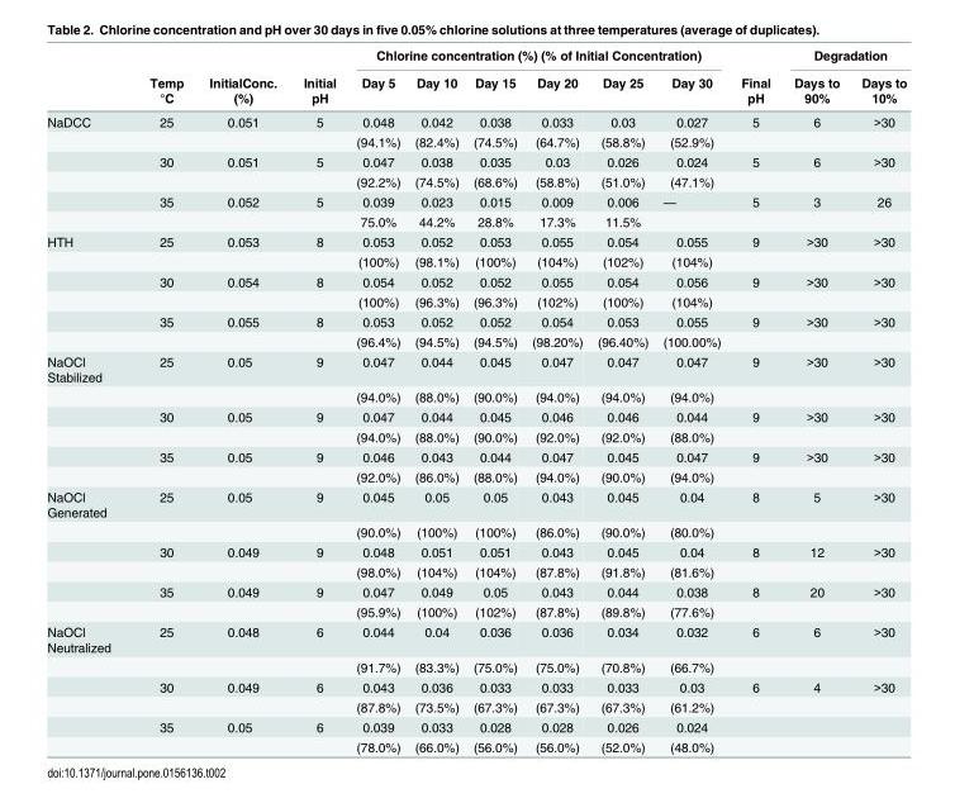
<table><thead><tr><td rowspan="2"></td><td rowspan="2">Temp °C</td><td rowspan="2">InitialConc. (%)</td><td rowspan="2">Initial pH</td><td colspan="6">Chlorine concentration (%) (% of Initial Concentration)</td><td rowspan="2">Final pH</td><td colspan="2">Degradation</td></tr><tr><td>Day 5</td><td>Day 10</td><td>Day 15</td><td>Day 20</td><td>Day 25</td><td>Day 30</td><td>Days to 90%</td><td>Days to 10%</td></tr></thead><tbody><tr><td rowspan="6">NaDCC</td><td>25</td><td>0.051</td><td>5</td><td>0.048</td><td>0.042</td><td>0.038</td><td>0.033</td><td>0.03</td><td>0.027</td><td>5</td><td>6</td><td>&gt;30</td></tr><tr><td></td><td></td><td></td><td>(94.1%)</td><td>(82.4%)</td><td>(74.5%)</td><td>(64.7%)</td><td>(58.8%)</td><td>(52.9%)</td><td></td><td></td><td></td></tr><tr><td>30</td><td>0.051</td><td>5</td><td>0.047</td><td>0.038</td><td>0.035</td><td>0.03</td><td>0.026</td><td>0.024</td><td>5</td><td>6</td><td>&gt;30</td></tr><tr><td></td><td></td><td></td><td>(92.2%)</td><td>(74.5%)</td><td>(68.6%)</td><td>(58.8%)</td><td>(51.0%)</td><td>(47.1%)</td><td></td><td></td><td></td></tr><tr><td>35</td><td>0.052</td><td>5</td><td>0.039</td><td>0.023</td><td>0.015</td><td>0.009</td><td>0.006</td><td>—</td><td>5</td><td>3</td><td>26</td></tr><tr><td></td><td></td><td></td><td>75.0%</td><td>44.2%</td><td>28.8%</td><td>17.3%</td><td>11.5%</td><td></td><td></td><td></td><td></td></tr><tr><td rowspan="6">HTH</td><td>25</td><td>0.053</td><td>8</td><td>0.053</td><td>0.052</td><td>0.053</td><td>0.055</td><td>0.054</td><td>0.055</td><td>9</td><td>&gt;30</td><td>&gt;30</td></tr><tr><td></td><td></td><td></td><td>(100%)</td><td>(98.1%)</td><td>(100%)</td><td>(104%)</td><td>(102%)</td><td>(104%)</td><td></td><td></td><td></td></tr><tr><td>30</td><td>0.054</td><td>8</td><td>0.054</td><td>0.052</td><td>0.052</td><td>0.055</td><td>0.054</td><td>0.056</td><td>9</td><td>&gt;30</td><td>&gt;30</td></tr><tr><td></td><td></td><td></td><td>(100%)</td><td>(96.3%)</td><td>(96.3%)</td><td>(102%)</td><td>(100%)</td><td>(104%)</td><td></td><td></td><td></td></tr><tr><td>35</td><td>0.055</td><td>8</td><td>0.053</td><td>0.052</td><td>0.052</td><td>0.054</td><td>0.053</td><td>0.055</td><td>9</td><td>&gt;30</td><td>&gt;30</td></tr><tr><td></td><td></td><td></td><td>(96.4%)</td><td>(94.5%)</td><td>(94.5%)</td><td>(98.20%)</td><td>(96.40%)</td><td>(100.00%)</td><td></td><td></td><td></td></tr><tr><td rowspan="6">NaOCl Stabilized</td><td>25</td><td>0.05</td><td>9</td><td>0.047</td><td>0.044</td><td>0.045</td><td>0.047</td><td>0.047</td><td>0.047</td><td>9</td><td>&gt;30</td><td>&gt;30</td></tr><tr><td></td><td></td><td></td><td>(94.0%)</td><td>(88.0%)</td><td>(90.0%)</td><td>(94.0%)</td><td>(94.0%)</td><td>(94.0%)</td><td></td><td></td><td></td></tr><tr><td>30</td><td>0.05</td><td>9</td><td>0.047</td><td>0.044</td><td>0.045</td><td>0.046</td><td>0.046</td><td>0.044</td><td>9</td><td>&gt;30</td><td>&gt;30</td></tr><tr><td></td><td></td><td></td><td>(94.0%)</td><td>(88.0%)</td><td>(90.0%)</td><td>(92.0%)</td><td>(92.0%)</td><td>(88.0%)</td><td></td><td></td><td></td></tr><tr><td>35</td><td>0.05</td><td>9</td><td>0.046</td><td>0.043</td><td>0.044</td><td>0.047</td><td>0.045</td><td>0.047</td><td>9</td><td>&gt;30</td><td>&gt;30</td></tr><tr><td></td><td></td><td></td><td>(92.0%)</td><td>(86.0%)</td><td>(88.0%)</td><td>(94.0%)</td><td>(90.0%)</td><td>(94.0%)</td><td></td><td></td><td></td></tr><tr><td rowspan="6">NaOCl Generated</td><td>25</td><td>0.05</td><td>9</td><td>0.045</td><td>0.05</td><td>0.05</td><td>0.043</td><td>0.045</td><td>0.04</td><td>8</td><td>5</td><td>&gt;30</td></tr><tr><td></td><td></td><td></td><td>(90.0%)</td><td>(100%)</td><td>(100%)</td><td>(86.0%)</td><td>(90.0%)</td><td>(80.0%)</td><td></td><td></td><td></td></tr><tr><td>30</td><td>0.049</td><td>9</td><td>0.048</td><td>0.051</td><td>0.051</td><td>0.043</td><td>0.045</td><td>0.04</td><td>8</td><td>12</td><td>&gt;30</td></tr><tr><td></td><td></td><td></td><td>(98.0%)</td><td>(104%)</td><td>(104%)</td><td>(87.8%)</td><td>(91.8%)</td><td>(81.6%)</td><td></td><td></td><td></td></tr><tr><td>35</td><td>0.049</td><td>9</td><td>0.047</td><td>0.049</td><td>0.05</td><td>0.043</td><td>0.044</td><td>0.038</td><td>8</td><td>20</td><td>&gt;30</td></tr><tr><td></td><td></td><td></td><td>(95.9%)</td><td>(100%)</td><td>(102%)</td><td>(87.8%)</td><td>(89.8%)</td><td>(77.6%)</td><td></td><td></td><td></td></tr><tr><td rowspan="6">NaOCl Neutralized</td><td>25</td><td>0.048</td><td>6</td><td>0.044</td><td>0.04</td><td>0.036</td><td>0.036</td><td>0.034</td><td>0.032</td><td>6</td><td>6</td><td>&gt;30</td></tr><tr><td></td><td></td><td></td><td>(91.7%)</td><td>(83.3%)</td><td>(75.0%)</td><td>(75.0%)</td><td>(70.8%)</td><td>(66.7%)</td><td></td><td></td><td></td></tr><tr><td>30</td><td>0.049</td><td>6</td><td>0.043</td><td>0.036</td><td>0.033</td><td>0.033</td><td>0.033</td><td>0.03</td><td>6</td><td>4</td><td>&gt;30</td></tr><tr><td></td><td></td><td></td><td>(87.8%)</td><td>(73.5%)</td><td>(67.3%)</td><td>(67.3%)</td><td>(67.3%)</td><td>(61.2%)</td><td></td><td></td><td></td></tr><tr><td>35</td><td>0.05</td><td>6</td><td>0.039</td><td>0.033</td><td>0.028</td><td>0.028</td><td>0.026</td><td>0.024</td><td></td><td></td><td></td></tr><tr><td></td><td></td><td></td><td>(78.0%)</td><td>(66.0%)</td><td>(56.0%)</td><td>(56.0%)</td><td>(52.0%)</td><td>(48.0%)</td><td></td><td></td><td></td></tr></tbody></table>